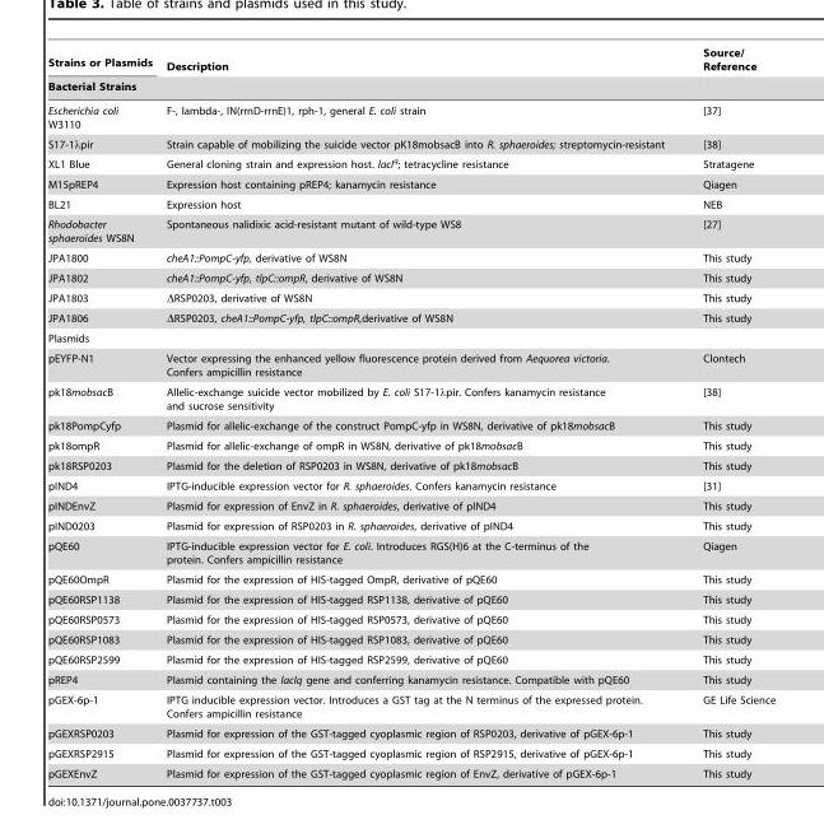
<table><thead><tr><td rowspan="2">Strains or Plasmids Bacterial Strains</td><td rowspan="2">Description</td><td rowspan="2">Source/ Reference</td></tr><tr></tr></thead><tbody><tr><td>Escherichia coli W3110</td><td>F-, lambda-, IN(rrnD-rrnE)1, rph-1, general E. coli strain</td><td>[37]</td></tr><tr><td>S17-1λpir</td><td>Strain capable of mobilizing the suicide vector pK18mobsacB into R. sphaeroides; streptomycin-resistant</td><td>[38]</td></tr><tr><td>XL1 Blue</td><td>General cloning strain and expression host. lacI<sup>q</sup>; tetracycline resistance</td><td>Stratagene</td></tr><tr><td>M15pREP4</td><td>Expression host containing pREP4; kanamycin resistance</td><td>Qiagen</td></tr><tr><td>BL21</td><td>Expression host</td><td>NEB</td></tr><tr><td>Rhodobacter sphaeroides WS8N</td><td>Spontaneous nalidixic acid-resistant mutant of wild-type WS8</td><td>[27]</td></tr><tr><td>JPA1800</td><td>cheA1::PompC-yfp, derivative of WS8N</td><td>This study</td></tr><tr><td>JPA1802</td><td>cheA1::PompC-yfp, tlpC::ompR, derivative of WS8N</td><td>This study</td></tr><tr><td>JPA1803</td><td>ΔRSP0203, derivative of WS8N</td><td>This study</td></tr><tr><td>JPA1806</td><td>ΔRSP0203, cheA1::PompC-yfp, tlpC::ompR,derivative of WS8N</td><td>This study</td></tr><tr><td colspan="3">Plasmids</td></tr><tr><td>pEYFP-N1</td><td>Vector expressing the enhanced yellow fluorescence protein derived from Aequorea victoria. Confers ampicillin resistance</td><td>Clontech</td></tr><tr><td>pk18mobsacB</td><td>Allelic-exchange suicide vector mobilized by E. coli S17-1λpir. Confers kanamycin resistance and sucrose sensitivity</td><td>[38]</td></tr><tr><td>pk18PompCyfp</td><td>Plasmid for allelic-exchange of the construct PompC-yfp in WS8N, derivative of pk18mobsacB</td><td>This study</td></tr><tr><td>pk18ompR</td><td>Plasmid for allelic-exchange of ompR in WS8N, derivative of pk18mobsacB</td><td>This study</td></tr><tr><td>pk18RSP0203</td><td>Plasmid for the deletion of RSP0203 in WS8N, derivative of pk18mobsacB</td><td>This study</td></tr><tr><td>pIND4</td><td>IPTG-inducible expression vector for R. sphaeroides. Confers kanamycin resistance</td><td>[31]</td></tr><tr><td>pINDEnvZ</td><td>Plasmid for expression of EnvZ in R. sphaeroides, derivative of pIND4</td><td>This study</td></tr><tr><td>pIND0203</td><td>Plasmid for expression of RSP0203 in R. sphaeroides, derivative of pIND4</td><td>This study</td></tr><tr><td>pQE60</td><td>IPTG-inducible expression vector for E. coli. Introduces RGS(H)6 at the C-terminus of the protein. Confers ampicillin resistance</td><td>Qiagen</td></tr><tr><td>pQE60OmpR</td><td>Plasmid for the expression of HIS-tagged OmpR, derivative of pQE60</td><td>This study</td></tr><tr><td>pQE60RSP1138</td><td>Plasmid for the expression of HIS-tagged RSP1138, derivative of pQE60</td><td>This study</td></tr><tr><td>pQE60RSP0573</td><td>Plasmid for the expression of HIS-tagged RSP0573, derivative of pQE60</td><td>This study</td></tr><tr><td>pQE60RSP1083</td><td>Plasmid for the expression of HIS-tagged RSP1083, derivative of pQE60</td><td>This study</td></tr><tr><td>pQE60RSP2599</td><td>Plasmid for the expression of HIS-tagged RSP2599, derivative of pQE60</td><td>This study</td></tr><tr><td>pREP4</td><td>Plasmid containing the lacIq gene and conferring kanamycin resistance. Compatible with pQE60</td><td>This study</td></tr><tr><td>pGEX-6p-1</td><td>IPTG inducible expression vector. Introduces a GST tag at the N terminus of the expressed protein. Confers ampicillin resistance</td><td>GE Life Science</td></tr><tr><td>pGEXRSP0203</td><td>Plasmid for expression of the GST-tagged cyoplasmic region of RSP0203, derivative of pGEX-6p-1</td><td>This study</td></tr><tr><td>pGEXRSP2915</td><td>Plasmid for expression of the GST-tagged cyoplasmic region of RSP2915, derivative of pGEX-6p-1</td><td>This study</td></tr><tr><td>pGEXEnvZ</td><td>Plasmid for expression of the GST-tagged cyoplasmic region of EnvZ, derivative of pGEX-6p-1</td><td>This study</td></tr></tbody></table>